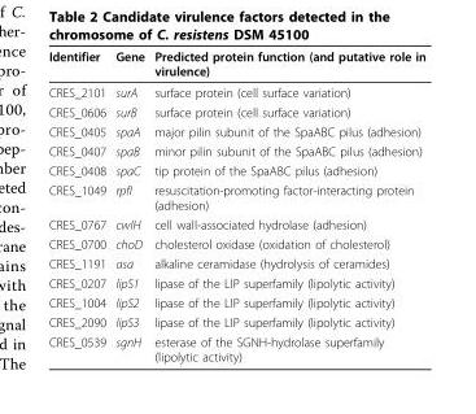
<table><thead><tr><td>Identifier</td><td>Gene</td><td>Predicted protein function (and putative role in virulence)</td></tr></thead><tbody><tr><td>CRES_2101</td><td>surA</td><td>surface protein (cell surface variation)</td></tr><tr><td>CRES_0606</td><td>surB</td><td>surface protein (cell surface variation)</td></tr><tr><td>CRES_0405</td><td>spaA</td><td>major pilin subunit of the SpaABC pilus (adhesion)</td></tr><tr><td>CRES_0407</td><td>spaB</td><td>minor pilin subunit of the SpaABC pilus (adhesion)</td></tr><tr><td>CRES_0408</td><td>spaC</td><td>tip protein of the SpaABC pilus (adhesion)</td></tr><tr><td>CRES_1049</td><td>rpfI</td><td>resuscitation-promoting factor-interacting protein (adhesion)</td></tr><tr><td>CRES_0767</td><td>cwlH</td><td>cell wall-associated hydrolase (adhesion)</td></tr><tr><td>CRES_0700</td><td>choD</td><td>cholesterol oxidase (oxidation of cholesterol)</td></tr><tr><td>CRES_1191</td><td>asa</td><td>alkaline ceramidase (hydrolysis of ceramides)</td></tr><tr><td>CRES_0207</td><td>lipS1</td><td>lipase of the LIP superfamily (lipolytic activity)</td></tr><tr><td>CRES_1004</td><td>lipS2</td><td>lipase of the LIP superfamily (lipolytic activity)</td></tr><tr><td>CRES_2090</td><td>lipS3</td><td>lipase of the LIP superfamily (lipolytic activity)</td></tr><tr><td>CRES_0539</td><td>sgnH</td><td>esterase of the SGNH-hydrolase superfamily (lipolytic activity)</td></tr></tbody></table>